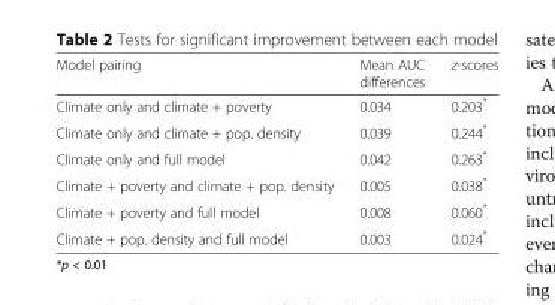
<table><thead><tr><td>Model pairing</td><td>Mean AUC differences</td><td>z-scores</td></tr></thead><tbody><tr><td>Climate only and climate + poverty</td><td>0.034</td><td>0.203*</td></tr><tr><td>Climate only and climate + pop. density</td><td>0.039</td><td>0.244*</td></tr><tr><td>Climate only and full model</td><td>0.042</td><td>0.263*</td></tr><tr><td>Climate + poverty and climate + pop. density</td><td>0.005</td><td>0.038*</td></tr><tr><td>Climate + poverty and full model</td><td>0.008</td><td>0.060*</td></tr><tr><td>Climate + pop. density and full model</td><td>0.003</td><td>0.024*</td></tr></tbody></table>